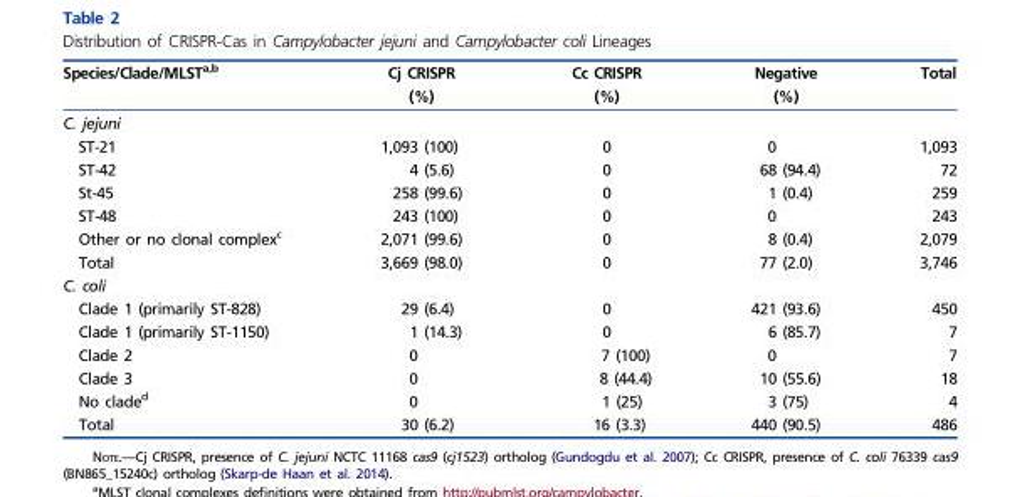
<table><thead><tr><td rowspan="2">Species/Clade/MLST<sup>a,b</sup></td><td rowspan="2">Cj CRISPR (%)</td><td rowspan="2">Cc CRISPR (%)</td><td rowspan="2">Negative (%)</td><td rowspan="2">Total</td></tr><tr></tr></thead><tbody><tr><td colspan="5">C. jejuni</td></tr><tr><td>ST-21</td><td>1,093 (100)</td><td>0</td><td>0</td><td>1,093</td></tr><tr><td>ST-42</td><td>4 (5.6)</td><td>0</td><td>68 (94.4)</td><td>72</td></tr><tr><td>St-45</td><td>258 (99.6)</td><td>0</td><td>1 (0.4)</td><td>259</td></tr><tr><td>ST-48</td><td>243 (100)</td><td>0</td><td>0</td><td>243</td></tr><tr><td>Other or no clonal complex<sup>c</sup></td><td>2,071 (99.6)</td><td>0</td><td>8 (0.4)</td><td>2,079</td></tr><tr><td>Total</td><td>3,669 (98.0)</td><td>0</td><td>77 (2.0)</td><td>3,746</td></tr><tr><td colspan="5">C. coli</td></tr><tr><td>Clade 1 (primarily ST-828)</td><td>29 (6.4)</td><td>0</td><td>421 (93.6)</td><td>450</td></tr><tr><td>Clade 1 (primarily ST-1150)</td><td>1 (14.3)</td><td>0</td><td>6 (85.7)</td><td>7</td></tr><tr><td>Clade 2</td><td>0</td><td>7 (100)</td><td>0</td><td>7</td></tr><tr><td>Clade 3</td><td>0</td><td>8 (44.4)</td><td>10 (55.6)</td><td>18</td></tr><tr><td>No clade<sup>d</sup></td><td>0</td><td>1 (25)</td><td>3 (75)</td><td>4</td></tr><tr><td>Total</td><td>30 (6.2)</td><td>16 (3.3)</td><td>440 (90.5)</td><td>486</td></tr></tbody></table>